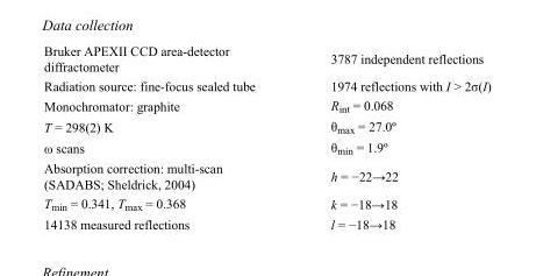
<table><tbody><tr><td>Bruker APEXII CCD area-detector diffractometer</td><td>3787 independent reflections</td></tr><tr><td>Radiation source: fine-focus sealed tube</td><td>1974 reflections with I &gt; 2σ(I)</td></tr><tr><td>Monochromator: graphite</td><td>R<sub>int</sub> = 0.068</td></tr><tr><td>T = 298(2) K</td><td>θ<sub>max</sub> = 27.0º</td></tr><tr><td>ω scans</td><td>θ<sub>min</sub> = 1.9º</td></tr><tr><td>Absorption correction: multi-scan (SADABS; Sheldrick, 2004)</td><td>h = −22→22</td></tr><tr><td>T<sub>min</sub> = 0.341, T<sub>max</sub> = 0.368</td><td>k = −18→18</td></tr><tr><td>14138 measured reflections</td><td>l = −18→18</td></tr></tbody></table>